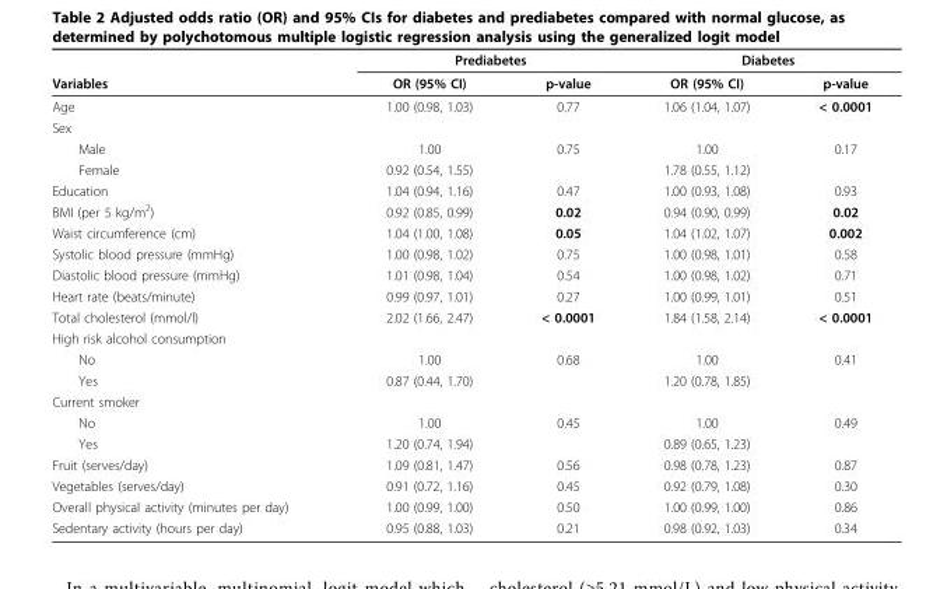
<table><thead><tr><td rowspan="2">Variables</td><td colspan="2">Prediabetes</td><td colspan="2">Diabetes</td></tr><tr><td>OR (95% CI)</td><td>p-value</td><td>OR (95% CI)</td><td>p-value</td></tr></thead><tbody><tr><td>Age</td><td>1.00 (0.98, 1.03)</td><td>0.77</td><td>1.06 (1.04, 1.07)</td><td>&lt; 0.0001</td></tr><tr><td colspan="5">Sex</td></tr><tr><td>Male</td><td>1.00</td><td>0.75</td><td>1.00</td><td>0.17</td></tr><tr><td>Female</td><td>0.92 (0.54, 1.55)</td><td></td><td>1.78 (0.55, 1.12)</td><td></td></tr><tr><td>Education</td><td>1.04 (0.94, 1.16)</td><td>0.47</td><td>1.00 (0.93, 1.08)</td><td>0.93</td></tr><tr><td>BMI (per 5 kg/m<sup>2</sup>)</td><td>0.92 (0.85, 0.99)</td><td>0.02</td><td>0.94 (0.90, 0.99)</td><td>0.02</td></tr><tr><td>Waist circumference (cm)</td><td>1.04 (1.00, 1.08)</td><td>0.05</td><td>1.04 (1.02, 1.07)</td><td>0.002</td></tr><tr><td>Systolic blood pressure (mmHg)</td><td>1.00 (0.98, 1.02)</td><td>0.75</td><td>1.00 (0.98, 1.01)</td><td>0.58</td></tr><tr><td>Diastolic blood pressure (mmHg)</td><td>1.01 (0.98, 1.04)</td><td>0.54</td><td>1.00 (0.98, 1.02)</td><td>0.71</td></tr><tr><td>Heart rate (beats/minute)</td><td>0.99 (0.97, 1.01)</td><td>0.27</td><td>1.00 (0.99, 1.01)</td><td>0.51</td></tr><tr><td>Total cholesterol (mmol/l)</td><td>2.02 (1.66, 2.47)</td><td>&lt; 0.0001</td><td>1.84 (1.58, 2.14)</td><td>&lt; 0.0001</td></tr><tr><td colspan="5">High risk alcohol consumption</td></tr><tr><td>No</td><td>1.00</td><td>0.68</td><td>1.00</td><td>0.41</td></tr><tr><td>Yes</td><td>0.87 (0.44, 1.70)</td><td></td><td>1.20 (0.78, 1.85)</td><td></td></tr><tr><td colspan="5">Current smoker</td></tr><tr><td>No</td><td>1.00</td><td>0.45</td><td>1.00</td><td>0.49</td></tr><tr><td>Yes</td><td>1.20 (0.74, 1.94)</td><td></td><td>0.89 (0.65, 1.23)</td><td></td></tr><tr><td>Fruit (serves/day)</td><td>1.09 (0.81, 1.47)</td><td>0.56</td><td>0.98 (0.78, 1.23)</td><td>0.87</td></tr><tr><td>Vegetables (serves/day)</td><td>0.91 (0.72, 1.16)</td><td>0.45</td><td>0.92 (0.79, 1.08)</td><td>0.30</td></tr><tr><td>Overall physical activity (minutes per day)</td><td>1.00 (0.99, 1.00)</td><td>0.50</td><td>1.00 (0.99, 1.00)</td><td>0.86</td></tr><tr><td>Sedentary activity (hours per day)</td><td>0.95 (0.88, 1.03)</td><td>0.21</td><td>0.98 (0.92, 1.03)</td><td>0.34</td></tr></tbody></table>